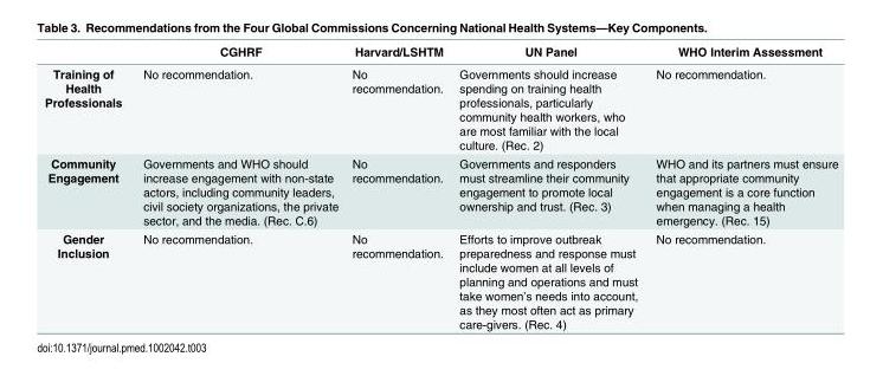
<table><thead><tr><td></td><td>CGHRF</td><td>Harvard/LSHTM</td><td>UN Panel</td><td>WHO Interim Assessment</td></tr></thead><tbody><tr><td>Training of Health Professionals</td><td>No recommendation.</td><td>No recommendation.</td><td>Governments should increase spending on training health professionals, particularly community health workers, who are most familiar with the local culture. (Rec. 2)</td><td>No recommendation.</td></tr><tr><td>Community Engagement</td><td>Governments and WHO should increase engagement with non-state actors, including community leaders, civil society organizations, the private sector, and the media. (Rec. C.6)</td><td>No recommendation.</td><td>Governments and responders must streamline their community engagement to promote local ownership and trust. (Rec. 3)</td><td>WHO and its partners must ensure that appropriate community engagement is a core function when managing a health emergency. (Rec. 15)</td></tr><tr><td>Gender Inclusion</td><td>No recommendation.</td><td>No recommendation.</td><td>Efforts to improve outbreak preparedness and response must include women at all levels of planning and operations and must take women’s needs into account, as they most often act as primary care-givers. (Rec. 4)</td><td>No recommendation.</td></tr></tbody></table>